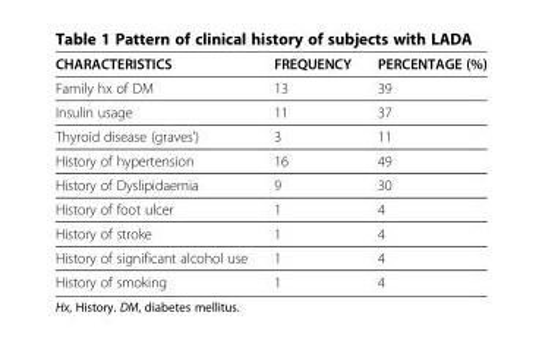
<table><thead><tr><td>CHARACTERISTICS</td><td>FREQUENCY</td><td>PERCENTAGE (%)</td></tr></thead><tbody><tr><td>Family hx of DM</td><td>13</td><td>39</td></tr><tr><td>Insulin usage</td><td>11</td><td>37</td></tr><tr><td>Thyroid disease (graves’)</td><td>3</td><td>11</td></tr><tr><td>History of hypertension</td><td>16</td><td>49</td></tr><tr><td>History of Dyslipidaemia</td><td>9</td><td>30</td></tr><tr><td>History of foot ulcer</td><td>1</td><td>4</td></tr><tr><td>History of stroke</td><td>1</td><td>4</td></tr><tr><td>History of significant alcohol use</td><td>1</td><td>4</td></tr><tr><td>History of smoking</td><td>1</td><td>4</td></tr></tbody></table>